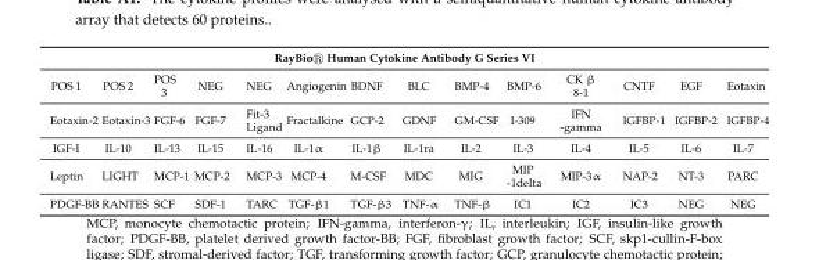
<table><thead><tr><td colspan="14">RayBio® Human Cytokine Antibody G Series VI</td></tr><tr><td>POS 1</td><td>POS 2</td><td>POS 3</td><td>NEG</td><td>NEG</td><td>Angiogenin</td><td>BDNF</td><td>BLC</td><td>BMP-4</td><td>BMP-6</td><td>CK β 8-1</td><td>CNTF</td><td>EGF</td><td>Eotaxin</td></tr></thead><tbody><tr><td>Eotaxin-2</td><td>Eotaxin-3</td><td>FGF-6</td><td>FGF-7</td><td>Fit-3 Ligand</td><td>Fractalkine</td><td>GCP-2</td><td>GDNF</td><td>GM-CSF</td><td>I-309</td><td>IFN -gamma</td><td>IGFBP-1</td><td>IGFBP-2</td><td>IGFBP-4</td></tr><tr><td>IGF-I</td><td>IL-10</td><td>IL-13</td><td>IL-15</td><td>IL-16</td><td>IL-1α</td><td>IL-1β</td><td>IL-1ra</td><td>IL-2</td><td>IL-3</td><td>IL-4</td><td>IL-5</td><td>IL-6</td><td>IL-7</td></tr><tr><td>Leptin</td><td>LIGHT</td><td>MCP-1</td><td>MCP-2</td><td>MCP-3</td><td>MCP-4</td><td>M-CSF</td><td>MDC</td><td>MIG</td><td>MIP -1delta</td><td>MIP-3α</td><td>NAP-2</td><td>NT-3</td><td>PARC</td></tr><tr><td>PDGF-BB</td><td>RANTES</td><td>SCF</td><td>SDF-1</td><td>TARC</td><td>TGF-β1</td><td>TGF-β3</td><td>TNF-α</td><td>TNF-β</td><td>IC1</td><td>IC2</td><td>IC3</td><td>NEG</td><td>NEG</td></tr></tbody></table>